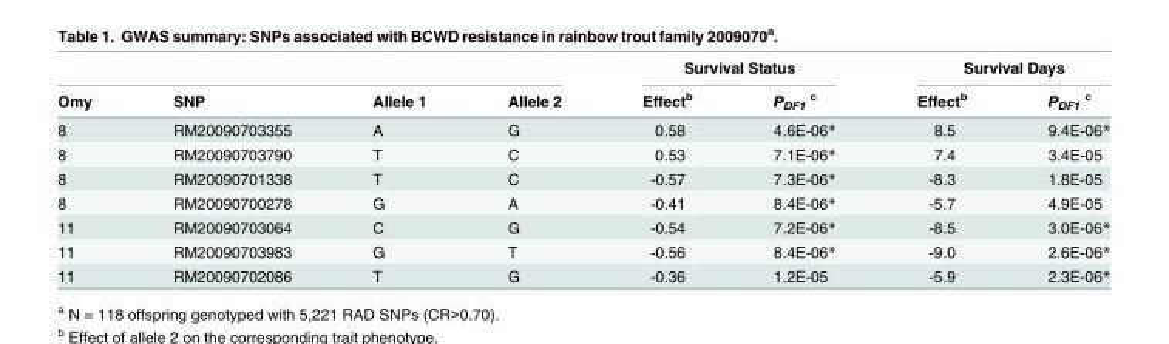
<table><thead><tr><td rowspan="2">Omy</td><td rowspan="2">SNP</td><td rowspan="2">Allele 1</td><td rowspan="2">Allele 2</td><td colspan="2">Survival Status</td><td colspan="2">Survival Days</td></tr><tr><td>Effect<sup>b</sup></td><td>P<sub>DF1</sub> <sup>c</sup></td><td>Effect<sup>b</sup></td><td>P<sub>DF1</sub> <sup>c</sup></td></tr></thead><tbody><tr><td>8</td><td>RM20090703355</td><td>A</td><td>G</td><td>0.58</td><td>4.6E-06*</td><td>8.5</td><td>9.4E-06*</td></tr><tr><td>8</td><td>RM20090703790</td><td>T</td><td>C</td><td>0.53</td><td>7.1E-06*</td><td>7.4</td><td>3.4E-05</td></tr><tr><td>8</td><td>RM20090701338</td><td>T</td><td>C</td><td>-0.57</td><td>7.3E-06*</td><td>-8.3</td><td>1.8E-05</td></tr><tr><td>8</td><td>RM20090700278</td><td>G</td><td>A</td><td>-0.41</td><td>8.4E-06*</td><td>-5.7</td><td>4.9E-05</td></tr><tr><td>11</td><td>RM20090703064</td><td>C</td><td>G</td><td>-0.54</td><td>7.2E-06*</td><td>-8.5</td><td>3.0E-06*</td></tr><tr><td>11</td><td>RM20090703983</td><td>G</td><td>T</td><td>-0.56</td><td>8.4E-06*</td><td>-9.0</td><td>2.6E-06*</td></tr><tr><td>11</td><td>RM20090702086</td><td>T</td><td>G</td><td>-0.36</td><td>1.2E-05</td><td>-5.9</td><td>2.3E-06*</td></tr></tbody></table>